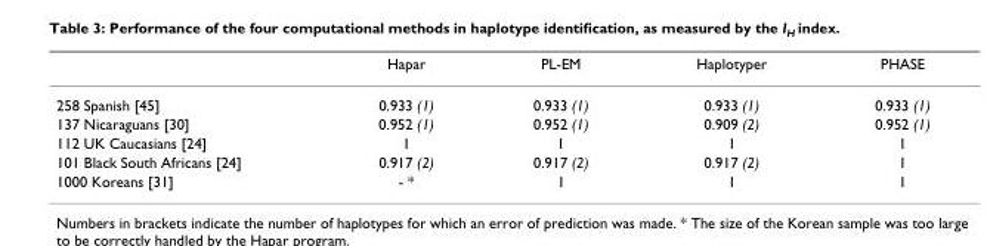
<table><thead><tr><td></td><td>Hapar</td><td>PL-EM</td><td>Haplotyper</td><td>PHASE</td></tr></thead><tbody><tr><td>258 Spanish [45]</td><td>0.933 (1)</td><td>0.933 (1)</td><td>0.933 (1)</td><td>0.933 (1)</td></tr><tr><td>137 Nicaraguans [30]</td><td>0.952 (1)</td><td>0.952 (1)</td><td>0.909 (2)</td><td>0.952 (1)</td></tr><tr><td>112 UK Caucasians [24]</td><td>1</td><td>1</td><td>1</td><td>1</td></tr><tr><td>101 Black South Africans [24]</td><td>0.917 (2)</td><td>0.917 (2)</td><td>0.917 (2)</td><td>1</td></tr><tr><td>1000 Koreans [31]</td><td>- *</td><td>1</td><td>1</td><td>1</td></tr></tbody></table>